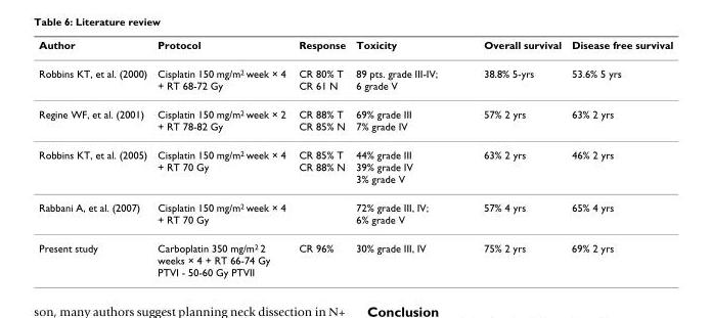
<table><thead><tr><td>Author</td><td>Protocol</td><td>Response</td><td>Toxicity</td><td>Overall survival</td><td>Disease free survival</td></tr></thead><tbody><tr><td>Robbins KT, et al. (2000)</td><td>Cisplatin 150 mg/m<sup>2</sup> week × 4 + RT 68-72 Gy</td><td>CR 80% T CR 61 N</td><td>89 pts. grade III-IV; 6 grade V</td><td>38.8% 5-yrs</td><td>53.6% 5 yrs</td></tr><tr><td>Regine WF, et al. (2001)</td><td>Cisplatin 150 mg/m<sup>2</sup> week × 2 + RT 78-82 Gy</td><td>CR 88% T CR 85% N</td><td>69% grade III 7% grade IV</td><td>57% 2 yrs</td><td>63% 2 yrs</td></tr><tr><td>Robbins KT, et al. (2005)</td><td>Cisplatin 150 mg/m<sup>2</sup> week × 4 + RT 70 Gy</td><td>CR 85% T CR 88% N</td><td>44% grade III 39% grade IV 3% grade V</td><td>63% 2 yrs</td><td>46% 2 yrs</td></tr><tr><td>Rabbani A, et al. (2007)</td><td>Cisplatin 150 mg/m<sup>2</sup> week × 4 + RT 70 Gy</td><td></td><td>72% grade III, IV; 6% grade V</td><td>57% 4 yrs</td><td>65% 4 yrs</td></tr><tr><td>Present study</td><td>Carboplatin 350 mg/m<sup>2</sup> 2 weeks × 4 + RT 66-74 Gy PTVI - 50-60 Gy PTVII</td><td>CR 96%</td><td>30% grade III, IV</td><td>75% 2 yrs</td><td>69% 2 yrs</td></tr></tbody></table>